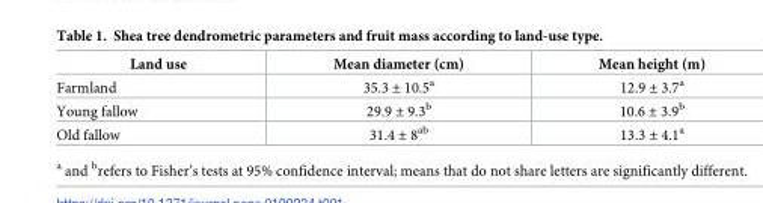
<table><thead><tr><td>Land use</td><td>Mean diameter (cm)</td><td>Mean height (m)</td></tr></thead><tbody><tr><td>Farmland</td><td>35.3 ± 10.5<sup>a</sup></td><td>12.9 ± 3.7<sup>a</sup></td></tr><tr><td>Young fallow</td><td>29.9 ± 9.3<sup>b</sup></td><td>10.6 ± 3.9<sup>b</sup></td></tr><tr><td>Old fallow</td><td>31.4 ± 8<sup>ab</sup></td><td>13.3 ± 4.1<sup>a</sup></td></tr></tbody></table>